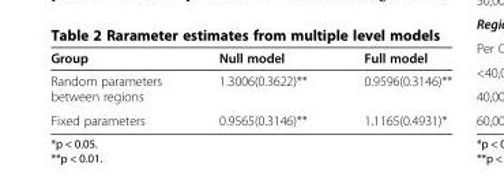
<table><thead><tr><td>Group</td><td>Null model</td><td>Full model</td></tr></thead><tbody><tr><td>Random parameters between regions</td><td>1.3006(0.3622)**</td><td>0.9596(0.3146)**</td></tr><tr><td>Fixed parameters</td><td>0.9565(0.3146)**</td><td>1.1165(0.4931)*</td></tr></tbody></table>